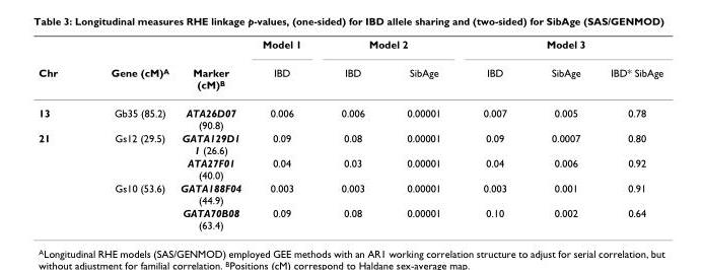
<table><thead><tr><td rowspan="2">Chr</td><td rowspan="2">Gene (cM)A</td><td rowspan="2">Marker (cM)B</td><td rowspan="2">Model 1 IBD</td><td colspan="2">Model 2</td><td colspan="3">Model 3</td></tr><tr><td>IBD</td><td>SibAge</td><td>IBD</td><td>SibAge</td><td>IBD* SibAge</td></tr></thead><tbody><tr><td>13</td><td>Gb35 (85.2)</td><td>ATA26D07 (90.8)</td><td>0.006</td><td>0.006</td><td>0.00001</td><td>0.007</td><td>0.005</td><td>0.78</td></tr><tr><td rowspan="4">21</td><td>Gs12 (29.5)</td><td>GATA129D1 1 (26.6)</td><td>0.09</td><td>0.08</td><td>0.00001</td><td>0.09</td><td>0.0007</td><td>0.80</td></tr><tr><td></td><td>ATA27F01 (40.0)</td><td>0.04</td><td>0.03</td><td>0.00001</td><td>0.04</td><td>0.006</td><td>0.92</td></tr><tr><td>Gs10 (53.6)</td><td>GATA188F04 (44.9)</td><td>0.003</td><td>0.003</td><td>0.00001</td><td>0.003</td><td>0.001</td><td>0.91</td></tr><tr><td></td><td>GATA70B08 (63.4)</td><td>0.09</td><td>0.08</td><td>0.00001</td><td>0.10</td><td>0.002</td><td>0.64</td></tr></tbody></table>